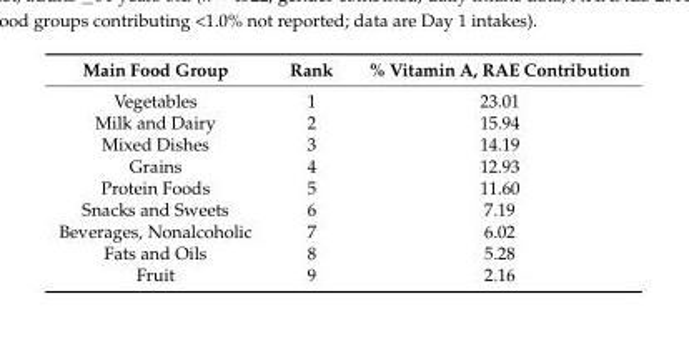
<table><thead><tr><td>Main Food Group</td><td>Rank</td><td>% Vitamin A, RAE Contribution</td></tr></thead><tbody><tr><td>Vegetables</td><td>1</td><td>23.01</td></tr><tr><td>Milk and Dairy</td><td>2</td><td>15.94</td></tr><tr><td>Mixed Dishes</td><td>3</td><td>14.19</td></tr><tr><td>Grains</td><td>4</td><td>12.93</td></tr><tr><td>Protein Foods</td><td>5</td><td>11.60</td></tr><tr><td>Snacks and Sweets</td><td>6</td><td>7.19</td></tr><tr><td>Beverages, Nonalcoholic</td><td>7</td><td>6.02</td></tr><tr><td>Fats and Oils</td><td>8</td><td>5.28</td></tr><tr><td>Fruit</td><td>9</td><td>2.16</td></tr></tbody></table>